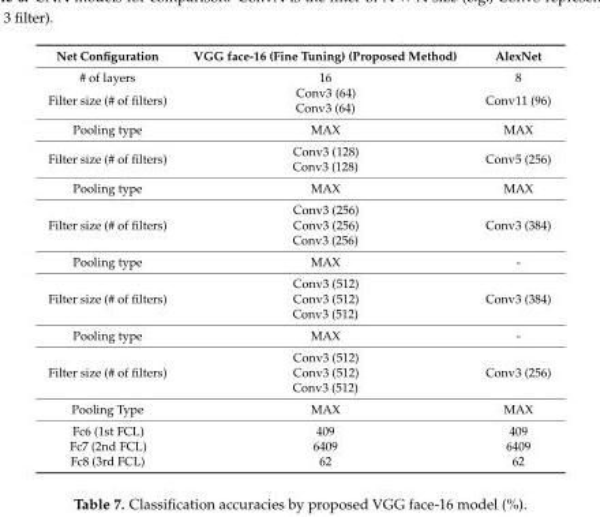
<table><thead><tr><td>Net Configuration</td><td>VGG face-16 (Fine Tuning) (Proposed Method)</td><td>AlexNet</td></tr></thead><tbody><tr><td># of layers</td><td>16</td><td>8</td></tr><tr><td>Filter size (# of filters)</td><td>Conv3 (64) Conv3 (64)</td><td>Conv11 (96)</td></tr><tr><td>Pooling type</td><td>MAX</td><td>MAX</td></tr><tr><td>Filter size (# of filters)</td><td>Conv3 (128) Conv3 (128)</td><td>Conv5 (256)</td></tr><tr><td>Pooling type</td><td>MAX</td><td>MAX</td></tr><tr><td>Filter size (# of filters)</td><td>Conv3 (256) Conv3 (256) Conv3 (256)</td><td>Conv3 (384)</td></tr><tr><td>Pooling type</td><td>MAX</td><td>-</td></tr><tr><td>Filter size (# of filters)</td><td>Conv3 (512) Conv3 (512) Conv3 (512)</td><td>Conv3 (384)</td></tr><tr><td>Pooling type</td><td>MAX</td><td>-</td></tr><tr><td>Filter size (# of filters)</td><td>Conv3 (512) Conv3 (512) Conv3 (512)</td><td>Conv3 (256)</td></tr><tr><td>Pooling Type</td><td>MAX</td><td>MAX</td></tr><tr><td>Fc6 (1st FCL) Fc7 (2nd FCL) Fc8 (3rd FCL)</td><td>409 6409 62</td><td>409 6409 62</td></tr></tbody></table>